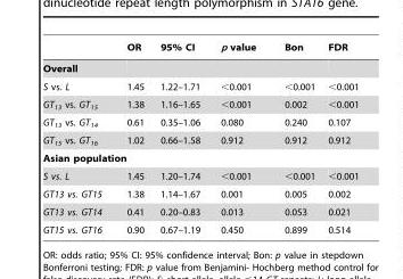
<table><thead><tr><td></td><td>OR</td><td>95% CI</td><td>p value</td><td>Bon</td><td>FDR</td></tr></thead><tbody><tr><td colspan="6">Overall</td></tr><tr><td>S vs. L</td><td>1.45</td><td>1.22–1.71</td><td>&lt;0.001</td><td>&lt;0.001</td><td>&lt;0.001</td></tr><tr><td>GT<sub>13</sub> vs. GT<sub>15</sub></td><td>1.38</td><td>1.16–1.65</td><td>&lt;0.001</td><td>0.002</td><td>&lt;0.001</td></tr><tr><td>GT<sub>13</sub> vs. GT<sub>14</sub></td><td>0.61</td><td>0.35–1.06</td><td>0.080</td><td>0.240</td><td>0.107</td></tr><tr><td>GT<sub>15</sub> vs. GT<sub>16</sub></td><td>1.02</td><td>0.66–1.58</td><td>0.912</td><td>0.912</td><td>0.912</td></tr><tr><td colspan="6">Asian population</td></tr><tr><td>S vs. L</td><td>1.45</td><td>1.20–1.74</td><td>&lt;0.001</td><td>&lt;0.001</td><td>&lt;0.001</td></tr><tr><td>GT13 vs. GT15</td><td>1.38</td><td>1.14–1.67</td><td>0.001</td><td>0.005</td><td>0.002</td></tr><tr><td>GT13 vs. GT14</td><td>0.41</td><td>0.20–0.83</td><td>0.013</td><td>0.053</td><td>0.021</td></tr><tr><td>GT15 vs. GT16</td><td>0.90</td><td>0.67–1.19</td><td>0.450</td><td>0.899</td><td>0.514</td></tr></tbody></table>